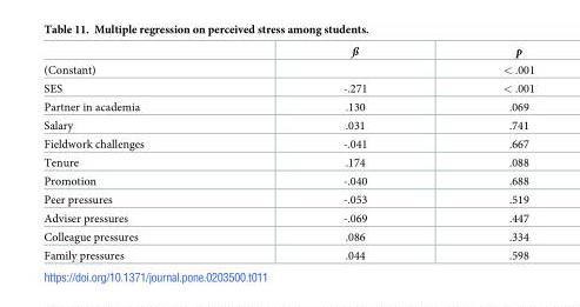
<table><thead><tr><td></td><td>ß</td><td>p</td></tr></thead><tbody><tr><td>(Constant)</td><td></td><td>&lt; .001</td></tr><tr><td>SES</td><td>-.271</td><td>&lt; .001</td></tr><tr><td>Partner in academia</td><td>.130</td><td>.069</td></tr><tr><td>Salary</td><td>.031</td><td>.741</td></tr><tr><td>Fieldwork challenges</td><td>-.041</td><td>.667</td></tr><tr><td>Tenure</td><td>.174</td><td>.088</td></tr><tr><td>Promotion</td><td>-.040</td><td>.688</td></tr><tr><td>Peer pressures</td><td>-.053</td><td>.519</td></tr><tr><td>Adviser pressures</td><td>-.069</td><td>.447</td></tr><tr><td>Colleague pressures</td><td>.086</td><td>.334</td></tr><tr><td>Family pressures</td><td>.044</td><td>.598</td></tr></tbody></table>